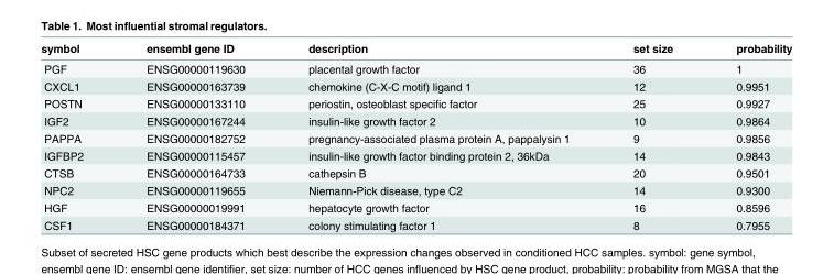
<table><thead><tr><td>symbol</td><td>ensembl gene ID</td><td>description</td><td>set size</td><td>probability</td></tr></thead><tbody><tr><td>PGF</td><td>ENSG00000119630</td><td>placental growth factor</td><td>36</td><td>1</td></tr><tr><td>CXCL1</td><td>ENSG00000163739</td><td>chemokine (C-X-C motif) ligand 1</td><td>12</td><td>0.9951</td></tr><tr><td>POSTN</td><td>ENSG00000133110</td><td>periostin, osteoblast specific factor</td><td>25</td><td>0.9927</td></tr><tr><td>IGF2</td><td>ENSG00000167244</td><td>insulin-like growth factor 2</td><td>10</td><td>0.9864</td></tr><tr><td>PAPPA</td><td>ENSG00000182752</td><td>pregnancy-associated plasma protein A, pappalysin 1</td><td>9</td><td>0.9856</td></tr><tr><td>IGFBP2</td><td>ENSG00000115457</td><td>insulin-like growth factor binding protein 2, 36kDa</td><td>14</td><td>0.9843</td></tr><tr><td>CTSB</td><td>ENSG00000164733</td><td>cathepsin B</td><td>20</td><td>0.9501</td></tr><tr><td>NPC2</td><td>ENSG00000119655</td><td>Niemann-Pick disease, type C2</td><td>14</td><td>0.9300</td></tr><tr><td>HGF</td><td>ENSG00000019991</td><td>hepatocyte growth factor</td><td>16</td><td>0.8596</td></tr><tr><td>CSF1</td><td>ENSG00000184371</td><td>colony stimulating factor 1</td><td>8</td><td>0.7955</td></tr></tbody></table>